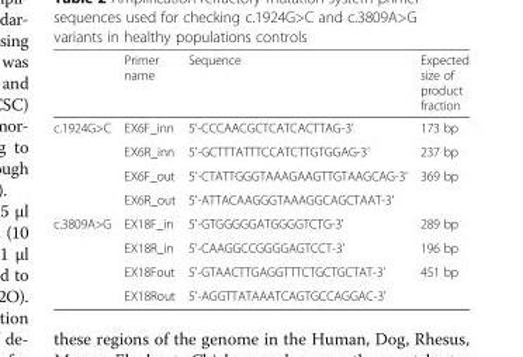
<table><thead><tr><td></td><td>Primer name</td><td>Sequence</td><td>Expected size of product fraction</td></tr></thead><tbody><tr><td rowspan="4">c.1924G&gt;C</td><td>EX6F_inn</td><td>5&#x27;-CCCAACGCTCATCACTTAG-3&#x27;</td><td>173 bp</td></tr><tr><td>EX6R_inn</td><td>5&#x27;-GCTTTATTTCCATCTTGTGGAG-3&#x27;</td><td>237 bp</td></tr><tr><td>EX6F_out</td><td>5&#x27;-CTATTGGGTAAAGAAGTTGTAAGCAG-3&#x27;</td><td rowspan="2">369 bp</td></tr><tr><td>EX6R_out</td><td>5&#x27;-ATTACAAGGGTAAAGGCAGCTAAT-3&#x27;</td></tr><tr><td rowspan="4">c.3809A&gt;G</td><td>EX18F_in</td><td>5&#x27;-GTGGGGGATGGGGTCTG-3&#x27;</td><td>289 bp</td></tr><tr><td>EX18R_in</td><td>5&#x27;-CAAGGCCGGGGAGTCCT-3&#x27;</td><td>196 bp</td></tr><tr><td>EX18Fout</td><td>5&#x27;-GTAACTTGAGGTTTCTGCTGCTAT-3&#x27;</td><td rowspan="2">451 bp</td></tr><tr><td>EX18Rout</td><td>5&#x27;-AGGTTATAAATCAGTGCCAGGAC-3&#x27;</td></tr></tbody></table>